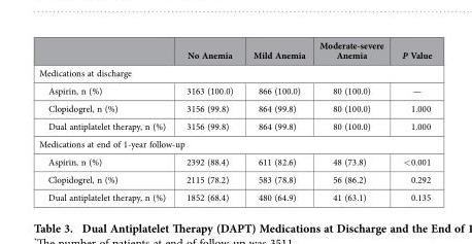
<table><thead><tr><td></td><td>No Anemia</td><td>Mild Anemia</td><td>Moderate-severe Anemia</td><td>P Value</td></tr></thead><tbody><tr><td colspan="5">Medications at discharge</td></tr><tr><td>Aspirin, n (%)</td><td>3163 (100.0)</td><td>866 (100.0)</td><td>80 (100.0)</td><td>—</td></tr><tr><td>Clopidogrel, n (%)</td><td>3156 (99.8)</td><td>864 (99.8)</td><td>80 (100.0)</td><td>1.000</td></tr><tr><td>Dual antiplatelet therapy, n (%)</td><td>3156 (99.8)</td><td>864 (99.8)</td><td>80 (100.0)</td><td>1.000</td></tr><tr><td colspan="5">Medications at end of 1-year follow-up</td></tr><tr><td>Aspirin, n (%)</td><td>2392 (88.4)</td><td>611 (82.6)</td><td>48 (73.8)</td><td>&lt; 0.001</td></tr><tr><td>Clopidogrel, n (%)</td><td>2115 (78.2)</td><td>583 (78.8)</td><td>56 (86.2)</td><td>0.292</td></tr><tr><td>Dual antiplatelet therapy, n (%)</td><td>1852 (68.4)</td><td>480 (64.9)</td><td>41 (63.1)</td><td>0.135</td></tr></tbody></table>